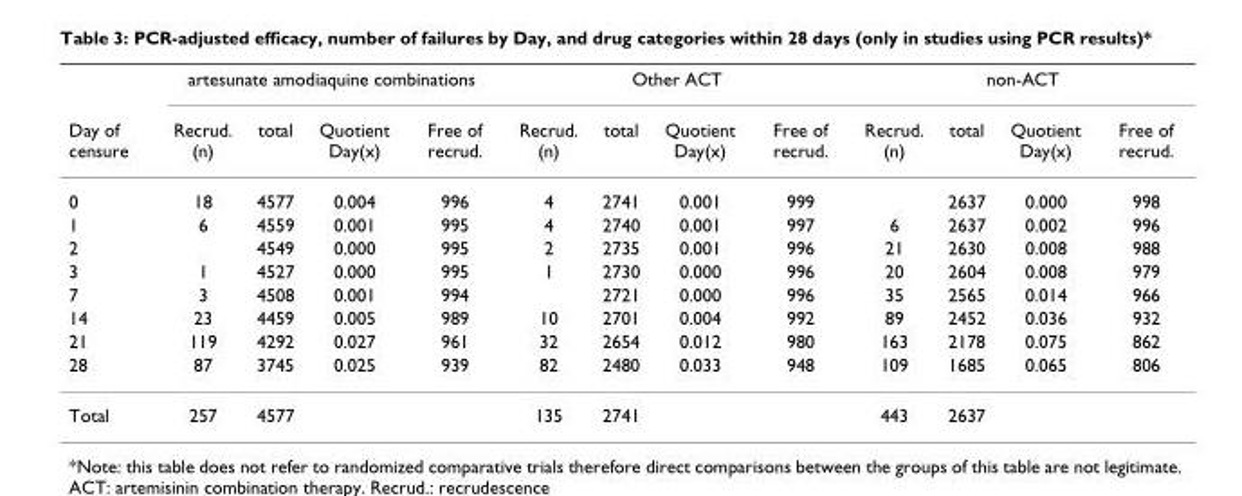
<table><thead><tr><td rowspan="2">Day of censure</td><td colspan="4">artesunate amodiaquine combinations</td><td colspan="4">Other ACT</td><td colspan="4">non-ACT</td></tr><tr><td>Recrud. (n)</td><td>total</td><td>Quotient Day(x)</td><td>Free of recrud.</td><td>Recrud. (n)</td><td>total</td><td>Quotient Day(x)</td><td>Free of recrud.</td><td>Recrud. (n)</td><td>total</td><td>Quotient Day(x)</td><td>Free of recrud.</td></tr></thead><tbody><tr><td>0</td><td>18</td><td>4577</td><td>0.004</td><td>996</td><td>4</td><td>2741</td><td>0.001</td><td>999</td><td></td><td>2637</td><td>0.000</td><td>998</td></tr><tr><td>1</td><td>6</td><td>4559</td><td>0.001</td><td>995</td><td>4</td><td>2740</td><td>0.001</td><td>997</td><td>6</td><td>2637</td><td>0.002</td><td>996</td></tr><tr><td>2</td><td></td><td>4549</td><td>0.000</td><td>995</td><td>2</td><td>2735</td><td>0.001</td><td>996</td><td>21</td><td>2630</td><td>0.008</td><td>988</td></tr><tr><td>3</td><td>1</td><td>4527</td><td>0.000</td><td>995</td><td>1</td><td>2730</td><td>0.000</td><td>996</td><td>20</td><td>2604</td><td>0.008</td><td>979</td></tr><tr><td>7</td><td>3</td><td>4508</td><td>0.001</td><td>994</td><td></td><td>2721</td><td>0.000</td><td>996</td><td>35</td><td>2565</td><td>0.014</td><td>966</td></tr><tr><td>14</td><td>23</td><td>4459</td><td>0.005</td><td>989</td><td>10</td><td>2701</td><td>0.004</td><td>992</td><td>89</td><td>2452</td><td>0.036</td><td>932</td></tr><tr><td>21</td><td>119</td><td>4292</td><td>0.027</td><td>961</td><td>32</td><td>2654</td><td>0.012</td><td>980</td><td>163</td><td>2178</td><td>0.075</td><td>862</td></tr><tr><td>28</td><td>87</td><td>3745</td><td>0.025</td><td>939</td><td>82</td><td>2480</td><td>0.033</td><td>948</td><td>109</td><td>1685</td><td>0.065</td><td>806</td></tr><tr><td>Total</td><td>257</td><td>4577</td><td></td><td></td><td>135</td><td>2741</td><td></td><td></td><td>443</td><td>2637</td><td></td><td></td></tr></tbody></table>